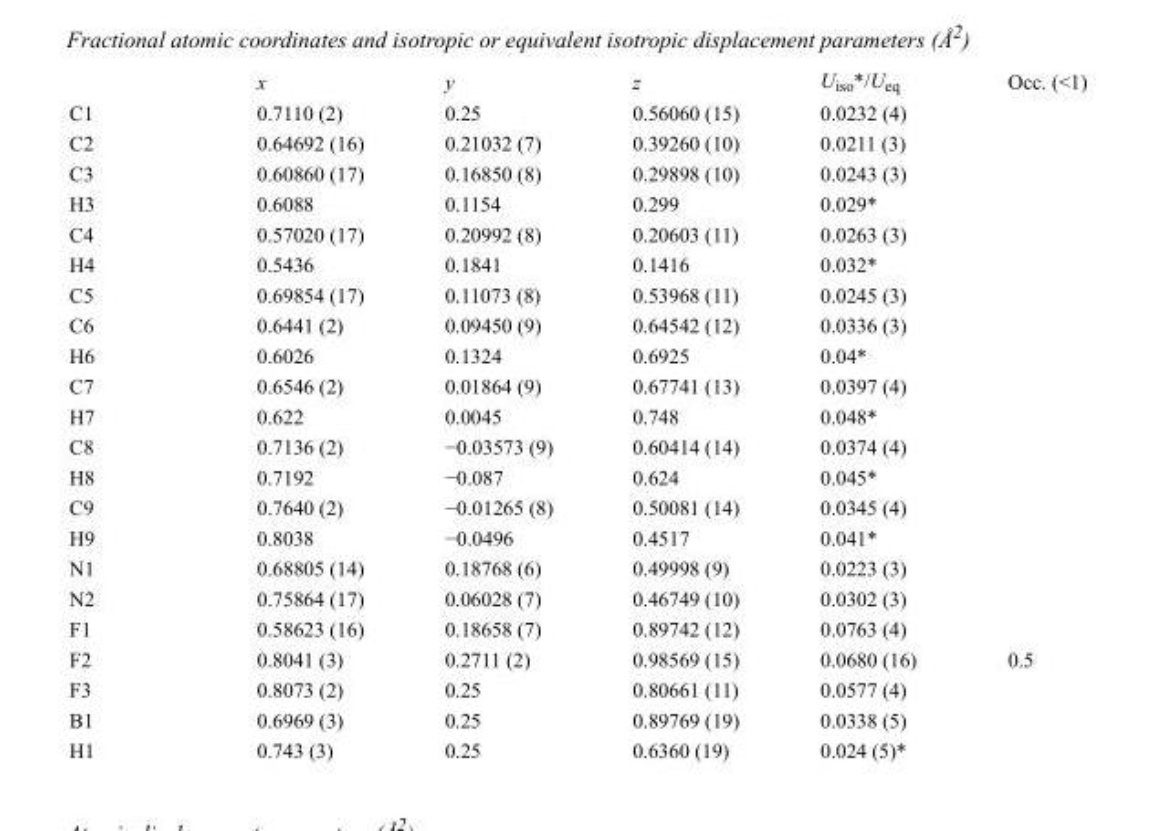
<table><thead><tr><td></td><td>x</td><td>y</td><td>z</td><td>U<sub>iso</sub>*/U<sub>eq</sub></td><td>Occ. (&lt;1)</td></tr></thead><tbody><tr><td>C1</td><td>0.7110 (2)</td><td>0.25</td><td>0.56060 (15)</td><td>0.0232 (4)</td><td></td></tr><tr><td>C2</td><td>0.64692 (16)</td><td>0.21032 (7)</td><td>0.39260 (10)</td><td>0.0211 (3)</td><td></td></tr><tr><td>C3</td><td>0.60860 (17)</td><td>0.16850 (8)</td><td>0.29898 (10)</td><td>0.0243 (3)</td><td></td></tr><tr><td>H3</td><td>0.6088</td><td>0.1154</td><td>0.299</td><td>0.029*</td><td></td></tr><tr><td>C4</td><td>0.57020 (17)</td><td>0.20992 (8)</td><td>0.20603 (11)</td><td>0.0263 (3)</td><td></td></tr><tr><td>H4</td><td>0.5436</td><td>0.1841</td><td>0.1416</td><td>0.032*</td><td></td></tr><tr><td>C5</td><td>0.69854 (17)</td><td>0.11073 (8)</td><td>0.53968 (11)</td><td>0.0245 (3)</td><td></td></tr><tr><td>C6</td><td>0.6441 (2)</td><td>0.09450 (9)</td><td>0.64542 (12)</td><td>0.0336 (3)</td><td></td></tr><tr><td>H6</td><td>0.6026</td><td>0.1324</td><td>0.6925</td><td>0.04*</td><td></td></tr><tr><td>C7</td><td>0.6546 (2)</td><td>0.01864 (9)</td><td>0.67741 (13)</td><td>0.0397 (4)</td><td></td></tr><tr><td>H7</td><td>0.622</td><td>0.0045</td><td>0.748</td><td>0.048*</td><td></td></tr><tr><td>C8</td><td>0.7136 (2)</td><td>−0.03573 (9)</td><td>0.60414 (14)</td><td>0.0374 (4)</td><td></td></tr><tr><td>H8</td><td>0.7192</td><td>−0.087</td><td>0.624</td><td>0.045*</td><td></td></tr><tr><td>C9</td><td>0.7640 (2)</td><td>−0.01265 (8)</td><td>0.50081 (14)</td><td>0.0345 (4)</td><td></td></tr><tr><td>H9</td><td>0.8038</td><td>−0.0496</td><td>0.4517</td><td>0.041*</td><td></td></tr><tr><td>N1</td><td>0.68805 (14)</td><td>0.18768 (6)</td><td>0.49998 (9)</td><td>0.0223 (3)</td><td></td></tr><tr><td>N2</td><td>0.75864 (17)</td><td>0.06028 (7)</td><td>0.46749 (10)</td><td>0.0302 (3)</td><td></td></tr><tr><td>F1</td><td>0.58623 (16)</td><td>0.18658 (7)</td><td>0.89742 (12)</td><td>0.0763 (4)</td><td></td></tr><tr><td>F2</td><td>0.8041 (3)</td><td>0.2711 (2)</td><td>0.98569 (15)</td><td>0.0680 (16)</td><td>0.5</td></tr><tr><td>F3</td><td>0.8073 (2)</td><td>0.25</td><td>0.80661 (11)</td><td>0.0577 (4)</td><td></td></tr><tr><td>B1</td><td>0.6969 (3)</td><td>0.25</td><td>0.89769 (19)</td><td>0.0338 (5)</td><td></td></tr><tr><td>H1</td><td>0.743 (3)</td><td>0.25</td><td>0.6360 (19)</td><td>0.024 (5)*</td><td></td></tr></tbody></table>